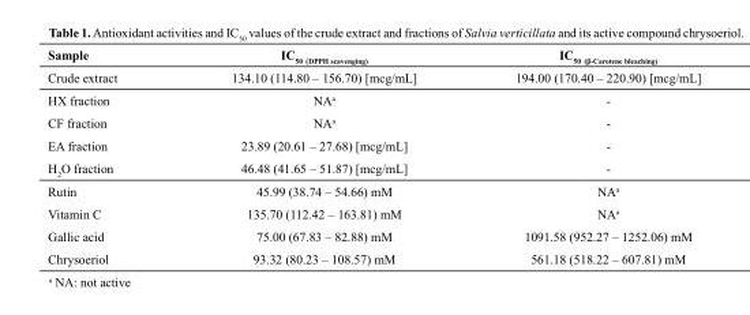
<table><thead><tr><td>Sample</td><td>IC<sub>50 (DPPH scavenging)</sub></td><td>IC<sub>50 (β-Carotene bleaching)</sub></td></tr></thead><tbody><tr><td>Crude extract</td><td>134.10 (114.80 – 156.70) [mcg/mL]</td><td>194.00 (170.40 – 220.90) [mcg/mL]</td></tr><tr><td>HX fraction</td><td>NA<sup>a</sup></td><td>-</td></tr><tr><td>CF fraction</td><td>NA<sup>a</sup></td><td>-</td></tr><tr><td>EA fraction</td><td>23.89 (20.61 – 27.68) [mcg/mL]</td><td>-</td></tr><tr><td>H<sub>2</sub>O fraction</td><td>46.48 (41.65 – 51.87) [mcg/mL]</td><td>-</td></tr><tr><td>Rutin</td><td>45.99 (38.74 – 54.66) mM</td><td>NA<sup>a</sup></td></tr><tr><td>Vitamin C</td><td>135.70 (112.42 – 163.81) mM</td><td>NA<sup>a</sup></td></tr><tr><td>Gallic acid</td><td>75.00 (67.83 – 82.88) mM</td><td>1091.58 (952.27 – 1252.06) mM</td></tr><tr><td>Chrysoeriol</td><td>93.32 (80.23 – 108.57) mM</td><td>561.18 (518.22 – 607.81) mM</td></tr></tbody></table>